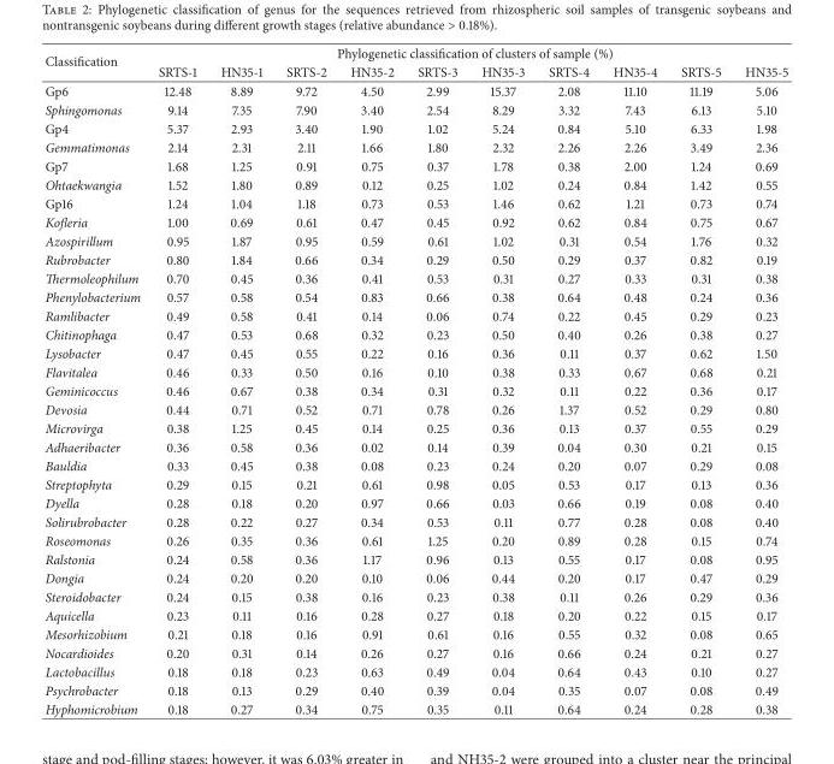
<table><thead><tr><td rowspan="2">Classification</td><td colspan="10">Phylogenetic classification of clusters of sample (%)</td></tr><tr><td>SRTS-1</td><td>HN35-1</td><td>SRTS-2</td><td>HN35-2</td><td>SRTS-3</td><td>HN35-3</td><td>SRTS-4</td><td>HN35-4</td><td>SRTS-5</td><td>HN35-5</td></tr></thead><tbody><tr><td>Gp6</td><td>12.48</td><td>8.89</td><td>9.72</td><td>4.50</td><td>2.99</td><td>15.37</td><td>2.08</td><td>11.10</td><td>11.19</td><td>5.06</td></tr><tr><td>Sphingomonas</td><td>9.14</td><td>7.35</td><td>7.90</td><td>3.40</td><td>2.54</td><td>8.29</td><td>3.32</td><td>7.43</td><td>6.13</td><td>5.10</td></tr><tr><td>Gp4</td><td>5.37</td><td>2.93</td><td>3.40</td><td>1.90</td><td>1.02</td><td>5.24</td><td>0.84</td><td>5.10</td><td>6.33</td><td>1.98</td></tr><tr><td>Gemmatimonas</td><td>2.14</td><td>2.31</td><td>2.11</td><td>1.66</td><td>1.80</td><td>2.32</td><td>2.26</td><td>2.26</td><td>3.49</td><td>2.36</td></tr><tr><td>Gp7</td><td>1.68</td><td>1.25</td><td>0.91</td><td>0.75</td><td>0.37</td><td>1.78</td><td>0.38</td><td>2.00</td><td>1.24</td><td>0.69</td></tr><tr><td>Ohtaekwangia</td><td>1.52</td><td>1.80</td><td>0.89</td><td>0.12</td><td>0.25</td><td>1.02</td><td>0.24</td><td>0.84</td><td>1.42</td><td>0.55</td></tr><tr><td>Gp16</td><td>1.24</td><td>1.04</td><td>1.18</td><td>0.73</td><td>0.53</td><td>1.46</td><td>0.62</td><td>1.21</td><td>0.73</td><td>0.74</td></tr><tr><td>Kofleria</td><td>1.00</td><td>0.69</td><td>0.61</td><td>0.47</td><td>0.45</td><td>0.92</td><td>0.62</td><td>0.84</td><td>0.75</td><td>0.67</td></tr><tr><td>Azospirillum</td><td>0.95</td><td>1.87</td><td>0.95</td><td>0.59</td><td>0.61</td><td>1.02</td><td>0.31</td><td>0.54</td><td>1.76</td><td>0.32</td></tr><tr><td>Rubrobacter</td><td>0.80</td><td>1.84</td><td>0.66</td><td>0.34</td><td>0.29</td><td>0.50</td><td>0.29</td><td>0.37</td><td>0.82</td><td>0.19</td></tr><tr><td>Thermoleophilum</td><td>0.70</td><td>0.45</td><td>0.36</td><td>0.41</td><td>0.53</td><td>0.31</td><td>0.27</td><td>0.33</td><td>0.31</td><td>0.38</td></tr><tr><td>Phenylobacterium</td><td>0.57</td><td>0.58</td><td>0.54</td><td>0.83</td><td>0.66</td><td>0.38</td><td>0.64</td><td>0.48</td><td>0.24</td><td>0.36</td></tr><tr><td>Ramlibacter</td><td>0.49</td><td>0.58</td><td>0.41</td><td>0.14</td><td>0.06</td><td>0.74</td><td>0.22</td><td>0.45</td><td>0.29</td><td>0.23</td></tr><tr><td>Chitinophaga</td><td>0.47</td><td>0.53</td><td>0.68</td><td>0.32</td><td>0.23</td><td>0.50</td><td>0.40</td><td>0.26</td><td>0.38</td><td>0.27</td></tr><tr><td>Lysobacter</td><td>0.47</td><td>0.45</td><td>0.55</td><td>0.22</td><td>0.16</td><td>0.36</td><td>0.11</td><td>0.37</td><td>0.62</td><td>1.50</td></tr><tr><td>Flavitalea</td><td>0.46</td><td>0.33</td><td>0.50</td><td>0.16</td><td>0.10</td><td>0.38</td><td>0.33</td><td>0.67</td><td>0.68</td><td>0.21</td></tr><tr><td>Geminicoccus</td><td>0.46</td><td>0.67</td><td>0.38</td><td>0.34</td><td>0.31</td><td>0.32</td><td>0.11</td><td>0.22</td><td>0.36</td><td>0.17</td></tr><tr><td>Devosia</td><td>0.44</td><td>0.71</td><td>0.52</td><td>0.71</td><td>0.78</td><td>0.26</td><td>1.37</td><td>0.52</td><td>0.29</td><td>0.80</td></tr><tr><td>Microvirga</td><td>0.38</td><td>1.25</td><td>0.45</td><td>0.14</td><td>0.25</td><td>0.36</td><td>0.13</td><td>0.37</td><td>0.55</td><td>0.29</td></tr><tr><td>Adhaeribacter</td><td>0.36</td><td>0.58</td><td>0.36</td><td>0.02</td><td>0.14</td><td>0.39</td><td>0.04</td><td>0.30</td><td>0.21</td><td>0.15</td></tr><tr><td>Bauldia</td><td>0.33</td><td>0.45</td><td>0.38</td><td>0.08</td><td>0.23</td><td>0.24</td><td>0.20</td><td>0.07</td><td>0.29</td><td>0.08</td></tr><tr><td>Streptophyta</td><td>0.29</td><td>0.15</td><td>0.21</td><td>0.61</td><td>0.98</td><td>0.05</td><td>0.53</td><td>0.17</td><td>0.13</td><td>0.36</td></tr><tr><td>Dyella</td><td>0.28</td><td>0.18</td><td>0.20</td><td>0.97</td><td>0.66</td><td>0.03</td><td>0.66</td><td>0.19</td><td>0.08</td><td>0.40</td></tr><tr><td>Solirubrobacter</td><td>0.28</td><td>0.22</td><td>0.27</td><td>0.34</td><td>0.53</td><td>0.11</td><td>0.77</td><td>0.28</td><td>0.08</td><td>0.40</td></tr><tr><td>Roseomonas</td><td>0.26</td><td>0.35</td><td>0.36</td><td>0.61</td><td>1.25</td><td>0.20</td><td>0.89</td><td>0.28</td><td>0.15</td><td>0.74</td></tr><tr><td>Ralstonia</td><td>0.24</td><td>0.58</td><td>0.36</td><td>1.17</td><td>0.96</td><td>0.13</td><td>0.55</td><td>0.17</td><td>0.08</td><td>0.95</td></tr><tr><td>Dongia</td><td>0.24</td><td>0.20</td><td>0.20</td><td>0.10</td><td>0.06</td><td>0.44</td><td>0.20</td><td>0.17</td><td>0.47</td><td>0.29</td></tr><tr><td>Steroidobacter</td><td>0.24</td><td>0.15</td><td>0.38</td><td>0.16</td><td>0.23</td><td>0.38</td><td>0.11</td><td>0.26</td><td>0.29</td><td>0.36</td></tr><tr><td>Aquicella</td><td>0.23</td><td>0.11</td><td>0.16</td><td>0.28</td><td>0.27</td><td>0.18</td><td>0.20</td><td>0.22</td><td>0.15</td><td>0.17</td></tr><tr><td>Mesorhizobium</td><td>0.21</td><td>0.18</td><td>0.16</td><td>0.91</td><td>0.61</td><td>0.16</td><td>0.55</td><td>0.32</td><td>0.08</td><td>0.65</td></tr><tr><td>Nocardioides</td><td>0.20</td><td>0.31</td><td>0.14</td><td>0.26</td><td>0.27</td><td>0.16</td><td>0.66</td><td>0.24</td><td>0.21</td><td>0.27</td></tr><tr><td>Lactobacillus</td><td>0.18</td><td>0.18</td><td>0.23</td><td>0.63</td><td>0.49</td><td>0.04</td><td>0.64</td><td>0.43</td><td>0.10</td><td>0.27</td></tr><tr><td>Psychrobacter</td><td>0.18</td><td>0.13</td><td>0.29</td><td>0.40</td><td>0.39</td><td>0.04</td><td>0.35</td><td>0.07</td><td>0.08</td><td>0.49</td></tr><tr><td>Hyphomicrobium</td><td>0.18</td><td>0.27</td><td>0.34</td><td>0.75</td><td>0.35</td><td>0.11</td><td>0.64</td><td>0.24</td><td>0.28</td><td>0.38</td></tr></tbody></table>